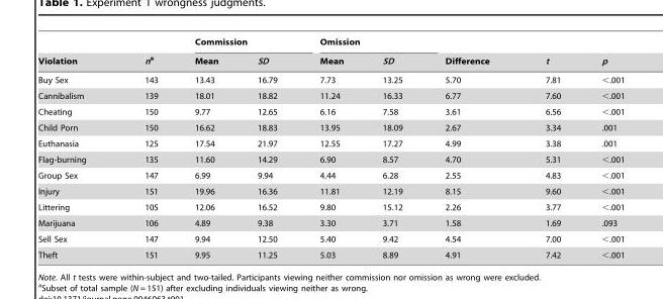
<table><thead><tr><td rowspan="2">Violation</td><td rowspan="2">na</td><td colspan="2">Commission</td><td colspan="2">Omission</td><td rowspan="2">Difference</td><td rowspan="2">t</td><td rowspan="2">p</td></tr><tr><td>Mean</td><td>SD</td><td>Mean</td><td>SD</td></tr></thead><tbody><tr><td>Buy Sex</td><td>143</td><td>13.43</td><td>16.79</td><td>7.73</td><td>13.25</td><td>5.70</td><td>7.81</td><td>&lt;.001</td></tr><tr><td>Cannibalism</td><td>139</td><td>18.01</td><td>18.82</td><td>11.24</td><td>16.33</td><td>6.77</td><td>7.60</td><td>&lt;.001</td></tr><tr><td>Cheating</td><td>150</td><td>9.77</td><td>12.65</td><td>6.16</td><td>7.58</td><td>3.61</td><td>6.56</td><td>&lt;.001</td></tr><tr><td>Child Porn</td><td>150</td><td>16.62</td><td>18.83</td><td>13.95</td><td>18.09</td><td>2.67</td><td>3.34</td><td>.001</td></tr><tr><td>Euthanasia</td><td>125</td><td>17.54</td><td>21.97</td><td>12.55</td><td>17.27</td><td>4.99</td><td>3.38</td><td>.001</td></tr><tr><td>Flag-burning</td><td>135</td><td>11.60</td><td>14.29</td><td>6.90</td><td>8.57</td><td>4.70</td><td>5.31</td><td>&lt;.001</td></tr><tr><td>Group Sex</td><td>147</td><td>6.99</td><td>9.94</td><td>4.44</td><td>6.28</td><td>2.55</td><td>4.83</td><td>&lt;.001</td></tr><tr><td>Injury</td><td>151</td><td>19.96</td><td>16.36</td><td>11.81</td><td>12.19</td><td>8.15</td><td>9.60</td><td>&lt;.001</td></tr><tr><td>Littering</td><td>105</td><td>12.06</td><td>16.52</td><td>9.80</td><td>15.12</td><td>2.26</td><td>3.77</td><td>&lt;.001</td></tr><tr><td>Marijuana</td><td>106</td><td>4.89</td><td>9.38</td><td>3.30</td><td>3.71</td><td>1.58</td><td>1.69</td><td>.093</td></tr><tr><td>Sell Sex</td><td>147</td><td>9.94</td><td>12.50</td><td>5.40</td><td>9.42</td><td>4.54</td><td>7.00</td><td>&lt;.001</td></tr><tr><td>Theft</td><td>151</td><td>9.95</td><td>11.25</td><td>5.03</td><td>8.89</td><td>4.91</td><td>7.42</td><td>&lt;.001</td></tr></tbody></table>